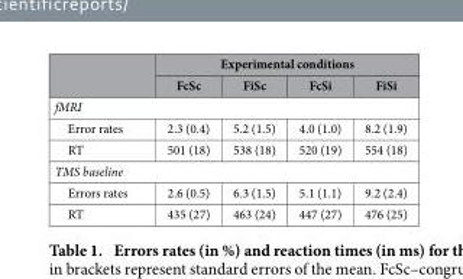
<table><thead><tr><td rowspan="2"></td><td colspan="4">Experimental conditions</td></tr><tr><td>FcSc</td><td>FiSc</td><td>FcSi</td><td>FiSi</td></tr></thead><tbody><tr><td colspan="5">fMRI</td></tr><tr><td>Error rates</td><td>2.3 (0.4)</td><td>5.2 (1.5)</td><td>4.0 (1.0)</td><td>8.2 (1.9)</td></tr><tr><td>RT</td><td>501 (18)</td><td>538 (18)</td><td>520 (19)</td><td>554 (18)</td></tr><tr><td colspan="5">TMS baseline</td></tr><tr><td>Errors rates</td><td>2.6 (0.5)</td><td>6.3 (1.5)</td><td>5.1 (1.1)</td><td>9.2 (2.4)</td></tr><tr><td>RT</td><td>435 (27)</td><td>463 (24)</td><td>447 (27)</td><td>476 (25)</td></tr></tbody></table>